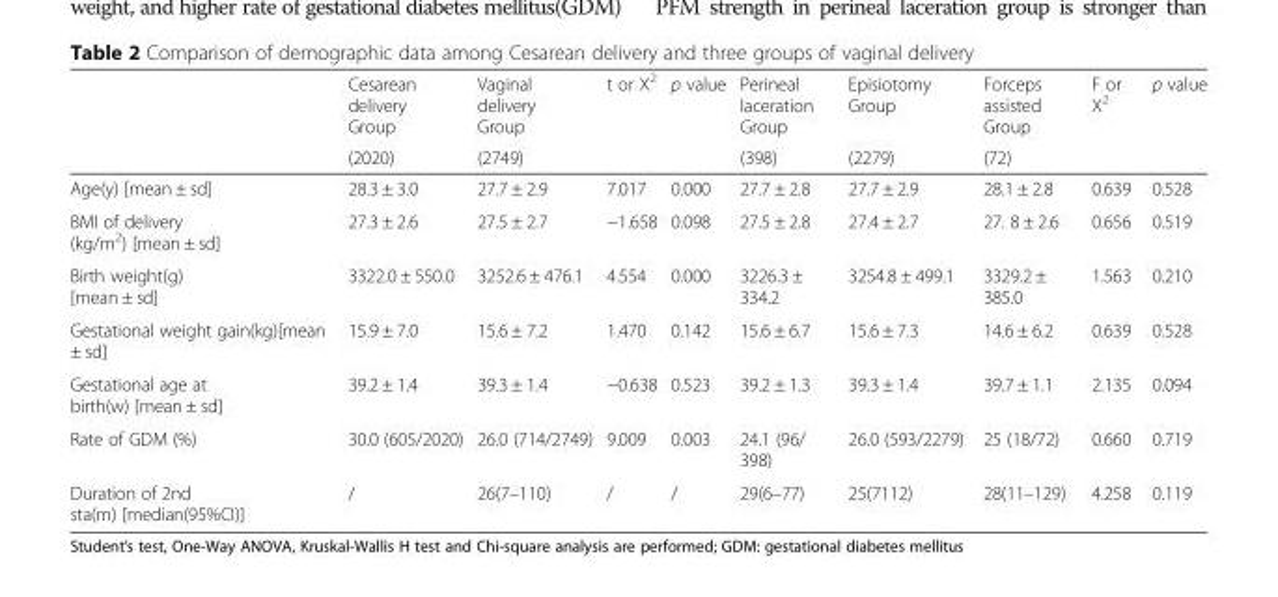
<table><thead><tr><td rowspan="2"></td><td rowspan="2">Cesarean delivery Group (2020)</td><td rowspan="2">Vaginal delivery Group (2749)</td><td rowspan="2">t or X<sup>2</sup></td><td rowspan="2">p value</td><td rowspan="2">Perineal laceration Group (398)</td><td rowspan="2">Episiotomy Group (2279)</td><td rowspan="2">Forceps assisted Group (72)</td><td rowspan="2">F or X<sup>2</sup></td><td rowspan="2">p value</td></tr><tr></tr></thead><tbody><tr><td>Age(y) [mean ± sd]</td><td>28.3 ± 3.0</td><td>27.7 ± 2.9</td><td>7.017</td><td>0.000</td><td>27.7 ± 2.8</td><td>27.7 ± 2.9</td><td>28.1 ± 2.8</td><td>0.639</td><td>0.528</td></tr><tr><td>BMI of delivery (kg/m<sup>2</sup>) [mean ± sd]</td><td>27.3 ± 2.6</td><td>27.5 ± 2.7</td><td>−1.658</td><td>0.098</td><td>27.5 ± 2.8</td><td>27.4 ± 2.7</td><td>27. 8 ± 2.6</td><td>0.656</td><td>0.519</td></tr><tr><td>Birth weight(g) [mean ± sd]</td><td>3322.0 ± 550.0</td><td>3252.6 ± 476.1</td><td>4.554</td><td>0.000</td><td>3226.3 ± 334.2</td><td>3254.8 ± 499.1</td><td>3329.2 ± 385.0</td><td>1.563</td><td>0.210</td></tr><tr><td>Gestational weight gain(kg)[mean ± sd]</td><td>15.9 ± 7.0</td><td>15.6 ± 7.2</td><td>1.470</td><td>0.142</td><td>15.6 ± 6.7</td><td>15.6 ± 7.3</td><td>14.6 ± 6.2</td><td>0.639</td><td>0.528</td></tr><tr><td>Gestational age at birth(w) [mean ± sd]</td><td>39.2 ± 1.4</td><td>39.3 ± 1.4</td><td>−0.638</td><td>0.523</td><td>39.2 ± 1.3</td><td>39.3 ± 1.4</td><td>39.7 ± 1.1</td><td>2.135</td><td>0.094</td></tr><tr><td>Rate of GDM (%)</td><td>30.0 (605/2020)</td><td>26.0 (714/2749)</td><td>9.009</td><td>0.003</td><td>24.1 (96/ 398)</td><td>26.0 (593/2279)</td><td>25 (18/72)</td><td>0.660</td><td>0.719</td></tr><tr><td>Duration of 2nd sta(m) [median(95%CI)]</td><td>/</td><td>26(7–110)</td><td>/</td><td>/</td><td>29(6–77)</td><td>25(7112)</td><td>28(11–129)</td><td>4.258</td><td>0.119</td></tr></tbody></table>